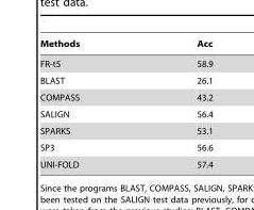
<table><thead><tr><td>Methods</td><td>Acc</td></tr></thead><tbody><tr><td>FR-t5</td><td>58.9</td></tr><tr><td>BLAST</td><td>26.1</td></tr><tr><td>COMPASS</td><td>43.2</td></tr><tr><td>SALIGN</td><td>56.4</td></tr><tr><td>SPARKS</td><td>53.1</td></tr><tr><td>SP3</td><td>56.6</td></tr><tr><td>UNI-FOLD</td><td>57.4</td></tr></tbody></table>